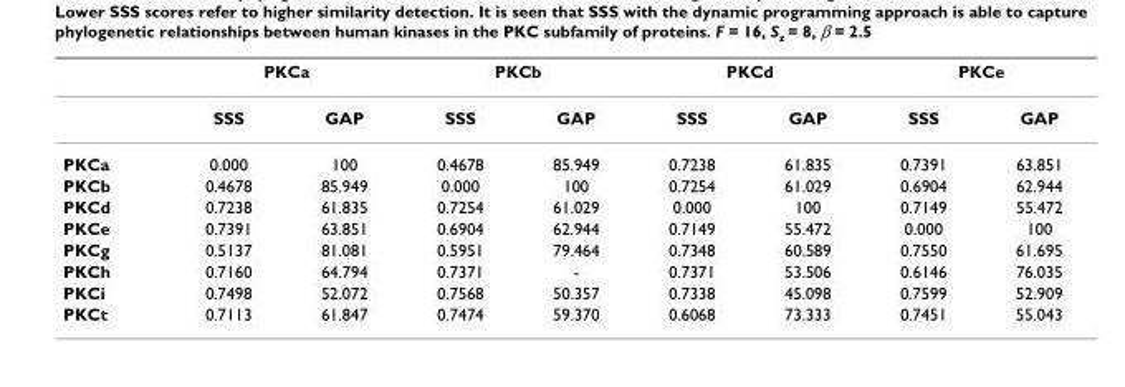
<table><thead><tr><td rowspan="2"></td><td colspan="2">PKCa</td><td colspan="2">PKCb</td><td colspan="2">PKCd</td><td colspan="2">PKCe</td></tr><tr><td>SSS</td><td>GAP</td><td>SSS</td><td>GAP</td><td>SSS</td><td>GAP</td><td>SSS</td><td>GAP</td></tr></thead><tbody><tr><td>PKCa</td><td>0.000</td><td>100</td><td>0.4678</td><td>85.949</td><td>0.7238</td><td>61.835</td><td>0.7391</td><td>63.851</td></tr><tr><td>PKCb</td><td>0.4678</td><td>85.949</td><td>0.000</td><td>100</td><td>0.7254</td><td>61.029</td><td>0.6904</td><td>62.944</td></tr><tr><td>PKCd</td><td>0.7238</td><td>61.835</td><td>0.7254</td><td>61.029</td><td>0.000</td><td>100</td><td>0.7149</td><td>55.472</td></tr><tr><td>PKCe</td><td>0.7391</td><td>63.851</td><td>0.6904</td><td>62.944</td><td>0.7149</td><td>55.472</td><td>0.000</td><td>100</td></tr><tr><td>PKCg</td><td>0.5137</td><td>81.081</td><td>0.5951</td><td>79.464</td><td>0.7348</td><td>60.589</td><td>0.7550</td><td>61.695</td></tr><tr><td>PKCh</td><td>0.7160</td><td>64.794</td><td>0.7371</td><td>-</td><td>0.7371</td><td>53.506</td><td>0.6146</td><td>76.035</td></tr><tr><td>PKCi</td><td>0.7498</td><td>52.072</td><td>0.7568</td><td>50.357</td><td>0.7338</td><td>45.098</td><td>0.7599</td><td>52.909</td></tr><tr><td>PKCt</td><td>0.7113</td><td>61.847</td><td>0.7474</td><td>59.370</td><td>0.6068</td><td>73.333</td><td>0.7451</td><td>55.043</td></tr></tbody></table>